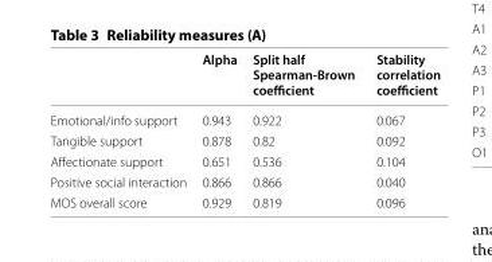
<table><thead><tr><td></td><td>Alpha</td><td>Split half Spearman-Brown coefficient</td><td>Stability correlation coefficient</td></tr></thead><tbody><tr><td>Emotional/info support</td><td>0.943</td><td>0.922</td><td>0.067</td></tr><tr><td>Tangible support</td><td>0.878</td><td>0.82</td><td>0.092</td></tr><tr><td>Affectionate support</td><td>0.651</td><td>0.536</td><td>0.104</td></tr><tr><td>Positive social interaction</td><td>0.866</td><td>0.866</td><td>0.040</td></tr><tr><td>MOS overall score</td><td>0.929</td><td>0.819</td><td>0.096</td></tr></tbody></table>